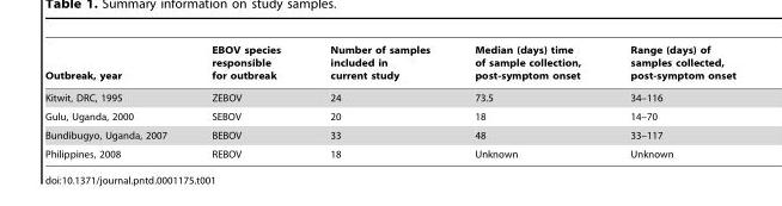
<table><thead><tr><td>Outbreak, year</td><td>EBOV species responsible for outbreak</td><td>Number of samples included in current study</td><td>Median (days) time of sample collection, post-symptom onset</td><td>Range (days) of samples collected, post-symptom onset</td></tr></thead><tbody><tr><td>Kitwit, DRC, 1995</td><td>ZEBOV</td><td>24</td><td>73.5</td><td>34–116</td></tr><tr><td>Gulu, Uganda, 2000</td><td>SEBOV</td><td>20</td><td>18</td><td>14–70</td></tr><tr><td>Bundibugyo, Uganda, 2007</td><td>BEBOV</td><td>33</td><td>48</td><td>33–117</td></tr><tr><td>Philippines, 2008</td><td>REBOV</td><td>18</td><td>Unknown</td><td>Unknown</td></tr></tbody></table>